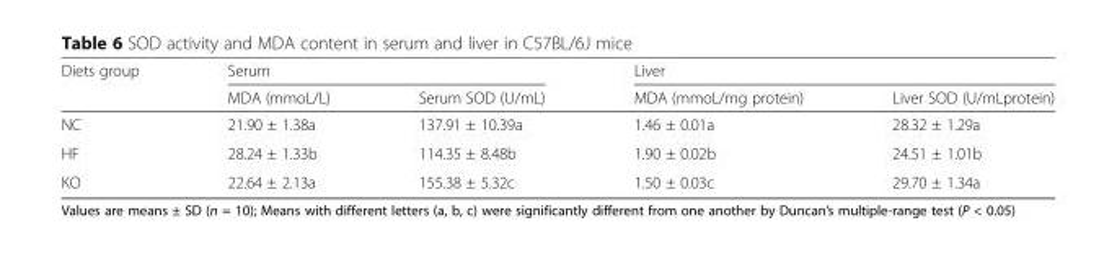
<table><thead><tr><td rowspan="2">Diets group</td><td colspan="2">Serum</td><td colspan="2">Liver</td></tr><tr><td>MDA (mmoL/L)</td><td>Serum SOD (U/mL)</td><td>MDA (mmoL/mg protein)</td><td>Liver SOD (U/mLprotein)</td></tr></thead><tbody><tr><td>NC</td><td>21.90 ± 1.38a</td><td>137.91 ± 10.39a</td><td>1.46 ± 0.01a</td><td>28.32 ± 1.29a</td></tr><tr><td>HF</td><td>28.24 ± 1.33b</td><td>114.35 ± 8.48b</td><td>1.90 ± 0.02b</td><td>24.51 ± 1.01b</td></tr><tr><td>KO</td><td>22.64 ± 2.13a</td><td>155.38 ± 5.32c</td><td>1.50 ± 0.03c</td><td>29.70 ± 1.34a</td></tr></tbody></table>